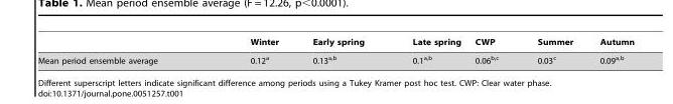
<table><thead><tr><td></td><td>Winter</td><td>Early spring</td><td>Late spring</td><td>CWP</td><td>Summer</td><td>Autumn</td></tr></thead><tbody><tr><td>Mean period ensemble average</td><td>0.12<sup>a</sup></td><td>0.13<sup>a,b</sup></td><td>0.1<sup>a,b</sup></td><td>0.06<sup>b,c</sup></td><td>0.03<sup>c</sup></td><td>0.09<sup>a,b</sup></td></tr></tbody></table>